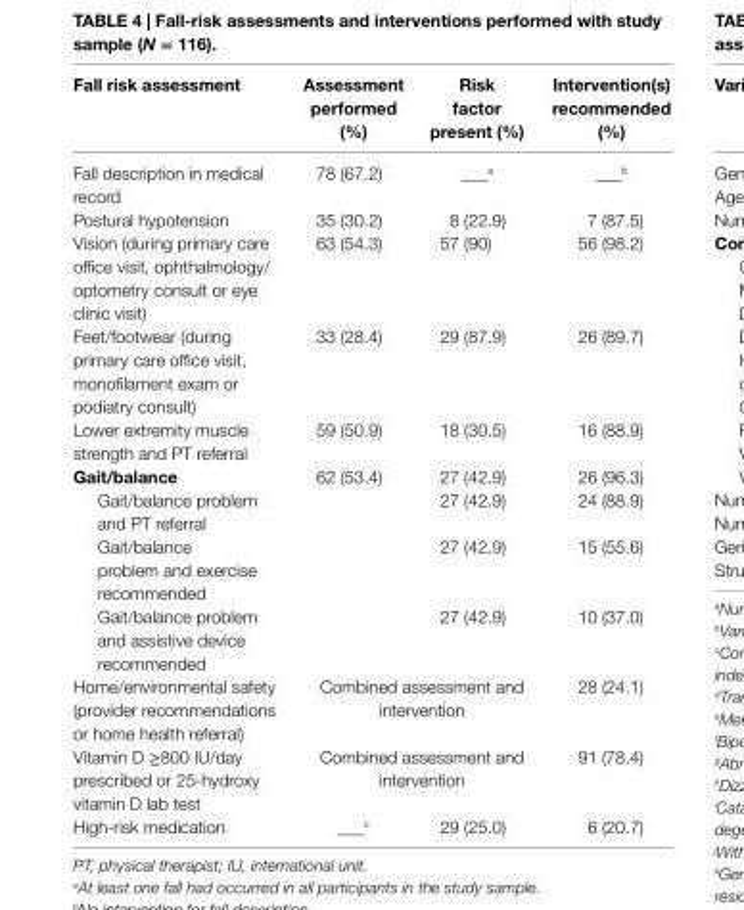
<table><thead><tr><td>Fall risk assessment</td><td>assessment performed (%)</td><td>risk factor present (%)</td><td>intervention(s) recommended (%)</td></tr></thead><tbody><tr><td>Fall description in medical record</td><td>78 (67.2)</td><td>___<sup>a</sup></td><td>___<sup>b</sup></td></tr><tr><td>Postural hypotension</td><td>35 (30.2)</td><td>8 (22.9)</td><td>7 (87.5)</td></tr><tr><td>Vision (during primary care office visit, ophthalmology/ optometry consult or eye clinic visit)</td><td>63 (54.3)</td><td>57 (90)</td><td>56 (98.2)</td></tr><tr><td>Feet/footwear (during primary care office visit, monofilament exam or podiatry consult)</td><td>33 (28.4)</td><td>29 (87.9)</td><td>26 (89.7)</td></tr><tr><td>Lower extremity muscle strength and PT referral</td><td>59 (50.9)</td><td>18 (30.5)</td><td>16 (88.9)</td></tr><tr><td>gait/balance</td><td>62 (53.4)</td><td>27 (42.9)</td><td>26 (96.3)</td></tr><tr><td>Gait/balance problem and PT referral</td><td></td><td>27 (42.9)</td><td>24 (88.9)</td></tr><tr><td>Gait/balance problem and exercise recommended</td><td></td><td>27 (42.9)</td><td>15 (55.6)</td></tr><tr><td>Gait/balance problem and assistive device recommended</td><td></td><td>27 (42.9)</td><td>10 (37.0)</td></tr><tr><td>Home/environmental safety (provider recommendations or home health referral)</td><td colspan="2">Combined assessment and intervention</td><td>28 (24.1)</td></tr><tr><td>Vitamin D ≥800 IU/day prescribed or 25-hydroxy vitamin D lab test</td><td colspan="2">Combined assessment and intervention</td><td>91 (78.4)</td></tr><tr><td>High-risk medication</td><td>___<sup>c</sup></td><td>29 (25.0)</td><td>6 (20.7)</td></tr></tbody></table>